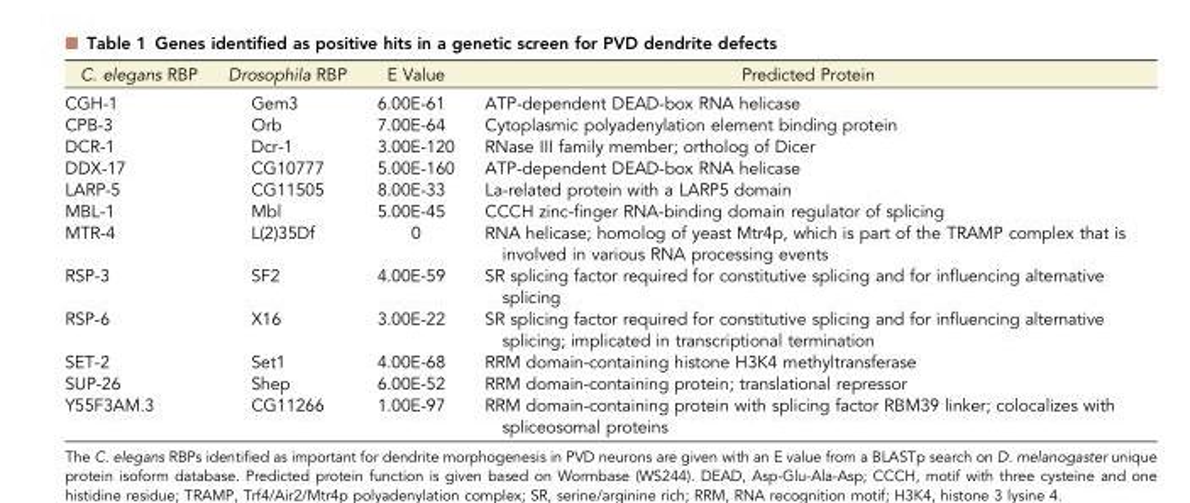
<table><thead><tr><td>C. elegans RBP</td><td>Drosophila RBP</td><td>E Value</td><td>Predicted Protein</td></tr></thead><tbody><tr><td>CGH-1</td><td>Gem3</td><td>6.00E-61</td><td>ATP-dependent DEAD-box RNA helicase</td></tr><tr><td>CPB-3</td><td>Orb</td><td>7.00E-64</td><td>Cytoplasmic polyadenylation element binding protein</td></tr><tr><td>DCR-1</td><td>Dcr-1</td><td>3.00E-120</td><td>RNase III family member; ortholog of Dicer</td></tr><tr><td>DDX-17</td><td>CG10777</td><td>5.00E-160</td><td>ATP-dependent DEAD-box RNA helicase</td></tr><tr><td>LARP-5</td><td>CG11505</td><td>8.00E-33</td><td>La-related protein with a LARP5 domain</td></tr><tr><td>MBL-1</td><td>Mbl</td><td>5.00E-45</td><td>CCCH zinc-finger RNA-binding domain regulator of splicing</td></tr><tr><td>MTR-4</td><td>L(2)35Df</td><td>0</td><td>RNA helicase; homolog of yeast Mtr4p, which is part of the TRAMP complex that is involved in various RNA processing events</td></tr><tr><td>RSP-3</td><td>SF2</td><td>4.00E-59</td><td>SR splicing factor required for constitutive splicing and for influencing alternative splicing</td></tr><tr><td>RSP-6</td><td>X16</td><td>3.00E-22</td><td>SR splicing factor required for constitutive splicing and for influencing alternative splicing; implicated in transcriptional termination</td></tr><tr><td>SET-2</td><td>Set1</td><td>4.00E-68</td><td>RRM domain-containing histone H3K4 methyltransferase</td></tr><tr><td>SUP-26</td><td>Shep</td><td>6.00E-52</td><td>RRM domain-containing protein; translational repressor</td></tr><tr><td>Y55F3AM.3</td><td>CG11266</td><td>1.00E-97</td><td>RRM domain-containing protein with splicing factor RBM39 linker; colocalizes with spliceosomal proteins</td></tr></tbody></table>